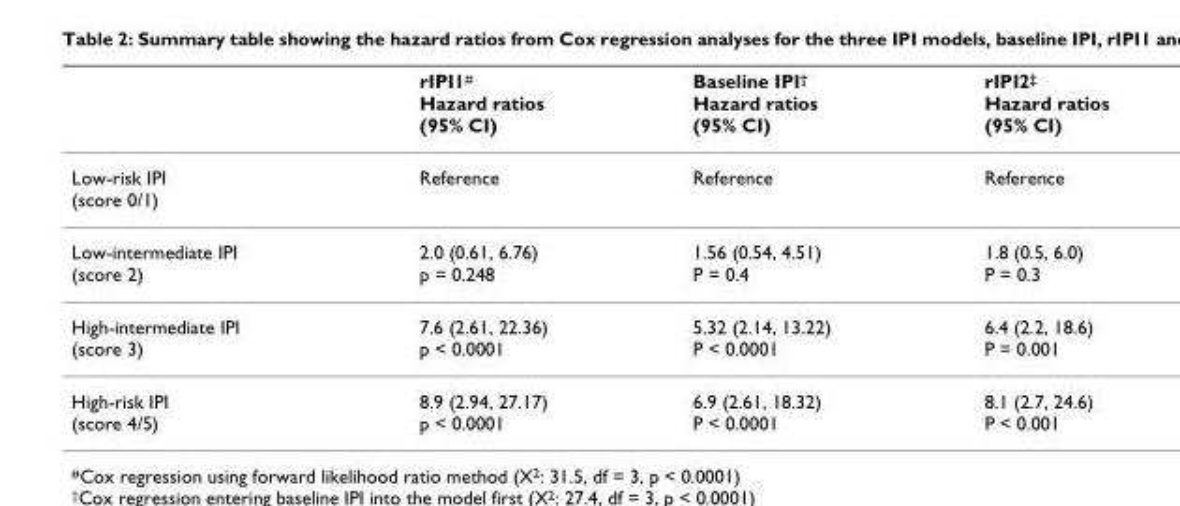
<table><thead><tr><td></td><td>rIPI1<sup>#</sup> Hazard ratios (95% CI)</td><td>Baseline IPI<sup>†</sup> Hazard ratios (95% CI)</td><td>rIPI2<sup>‡</sup> Hazard ratios (95% CI)</td></tr></thead><tbody><tr><td>Low-risk IPI (score 0/1)</td><td>Reference</td><td>Reference</td><td>Reference</td></tr><tr><td>Low-intermediate IPI (score 2)</td><td>2.0 (0.61, 6.76) p = 0.248</td><td>1.56 (0.54, 4.51) P = 0.4</td><td>1.8 (0.5, 6.0) P = 0.3</td></tr><tr><td>High-intermediate IPI (score 3)</td><td>7.6 (2.61, 22.36) p &lt; 0.0001</td><td>5.32 (2.14, 13.22) P &lt; 0.0001</td><td>6.4 (2.2, 18.6) P = 0.001</td></tr><tr><td>High-risk IPI (score 4/5)</td><td>8.9 (2.94, 27.17) p &lt; 0.0001</td><td>6.9 (2.61, 18.32) P &lt; 0.0001</td><td>8.1 (2.7, 24.6) P &lt; 0.001</td></tr></tbody></table>